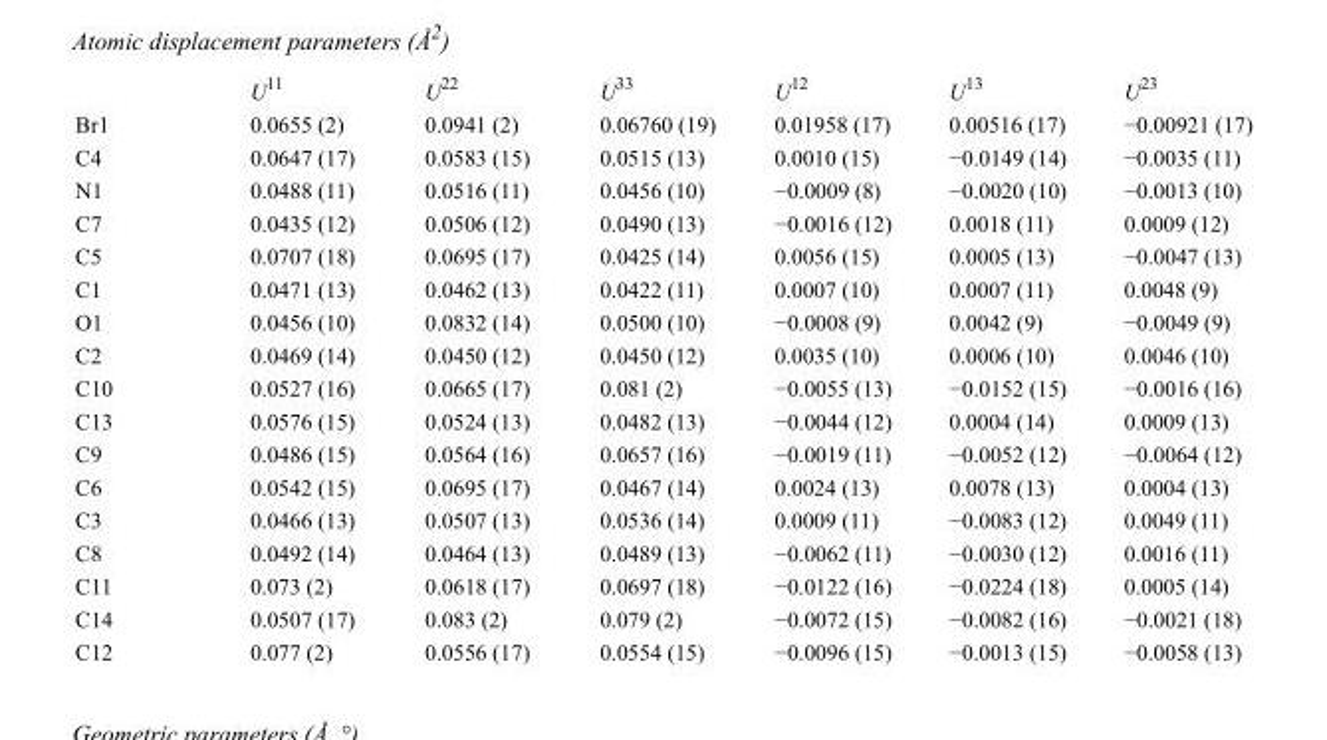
<table><thead><tr><td></td><td>U<sup>11</sup></td><td>U<sup>22</sup></td><td>U<sup>33</sup></td><td>U<sup>12</sup></td><td>U<sup>13</sup></td><td>U<sup>23</sup></td></tr></thead><tbody><tr><td>Br1</td><td>0.0655 (2)</td><td>0.0941 (2)</td><td>0.06760 (19)</td><td>0.01958 (17)</td><td>0.00516 (17)</td><td>−0.00921 (17)</td></tr><tr><td>C4</td><td>0.0647 (17)</td><td>0.0583 (15)</td><td>0.0515 (13)</td><td>0.0010 (15)</td><td>−0.0149 (14)</td><td>−0.0035 (11)</td></tr><tr><td>N1</td><td>0.0488 (11)</td><td>0.0516 (11)</td><td>0.0456 (10)</td><td>−0.0009 (8)</td><td>−0.0020 (10)</td><td>−0.0013 (10)</td></tr><tr><td>C7</td><td>0.0435 (12)</td><td>0.0506 (12)</td><td>0.0490 (13)</td><td>−0.0016 (12)</td><td>0.0018 (11)</td><td>0.0009 (12)</td></tr><tr><td>C5</td><td>0.0707 (18)</td><td>0.0695 (17)</td><td>0.0425 (14)</td><td>0.0056 (15)</td><td>0.0005 (13)</td><td>−0.0047 (13)</td></tr><tr><td>C1</td><td>0.0471 (13)</td><td>0.0462 (13)</td><td>0.0422 (11)</td><td>0.0007 (10)</td><td>0.0007 (11)</td><td>0.0048 (9)</td></tr><tr><td>O1</td><td>0.0456 (10)</td><td>0.0832 (14)</td><td>0.0500 (10)</td><td>−0.0008 (9)</td><td>0.0042 (9)</td><td>−0.0049 (9)</td></tr><tr><td>C2</td><td>0.0469 (14)</td><td>0.0450 (12)</td><td>0.0450 (12)</td><td>0.0035 (10)</td><td>0.0006 (10)</td><td>0.0046 (10)</td></tr><tr><td>C10</td><td>0.0527 (16)</td><td>0.0665 (17)</td><td>0.081 (2)</td><td>−0.0055 (13)</td><td>−0.0152 (15)</td><td>−0.0016 (16)</td></tr><tr><td>C13</td><td>0.0576 (15)</td><td>0.0524 (13)</td><td>0.0482 (13)</td><td>−0.0044 (12)</td><td>0.0004 (14)</td><td>0.0009 (13)</td></tr><tr><td>C9</td><td>0.0486 (15)</td><td>0.0564 (16)</td><td>0.0657 (16)</td><td>−0.0019 (11)</td><td>−0.0052 (12)</td><td>−0.0064 (12)</td></tr><tr><td>C6</td><td>0.0542 (15)</td><td>0.0695 (17)</td><td>0.0467 (14)</td><td>0.0024 (13)</td><td>0.0078 (13)</td><td>0.0004 (13)</td></tr><tr><td>C3</td><td>0.0466 (13)</td><td>0.0507 (13)</td><td>0.0536 (14)</td><td>0.0009 (11)</td><td>−0.0083 (12)</td><td>0.0049 (11)</td></tr><tr><td>C8</td><td>0.0492 (14)</td><td>0.0464 (13)</td><td>0.0489 (13)</td><td>−0.0062 (11)</td><td>−0.0030 (12)</td><td>0.0016 (11)</td></tr><tr><td>C11</td><td>0.073 (2)</td><td>0.0618 (17)</td><td>0.0697 (18)</td><td>−0.0122 (16)</td><td>−0.0224 (18)</td><td>0.0005 (14)</td></tr><tr><td>C14</td><td>0.0507 (17)</td><td>0.083 (2)</td><td>0.079 (2)</td><td>−0.0072 (15)</td><td>−0.0082 (16)</td><td>−0.0021 (18)</td></tr><tr><td>C12</td><td>0.077 (2)</td><td>0.0556 (17)</td><td>0.0554 (15)</td><td>−0.0096 (15)</td><td>−0.0013 (15)</td><td>−0.0058 (13)</td></tr></tbody></table>